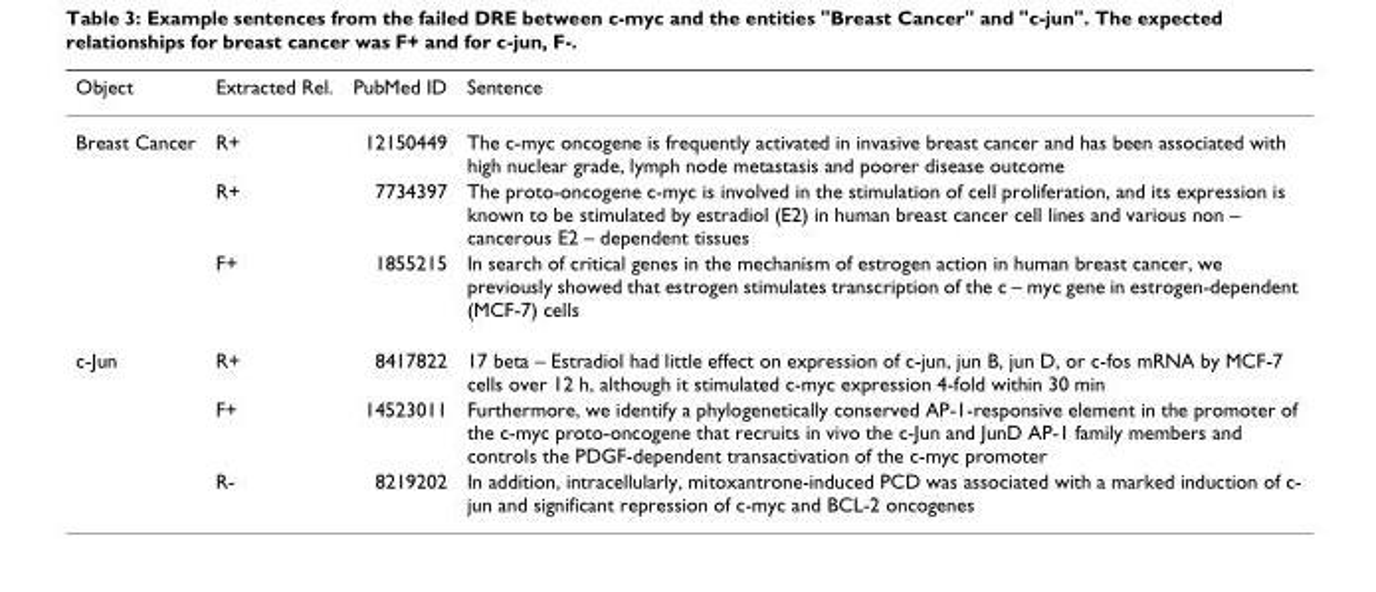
<table><thead><tr><td>Object</td><td>Extracted Rel.</td><td>PubMed ID</td><td>Sentence</td></tr></thead><tbody><tr><td rowspan="3">Breast Cancer</td><td>R+</td><td>12150449</td><td>The c-myc oncogene is frequently activated in invasive breast cancer and has been associated with high nuclear grade, lymph node metastasis and poorer disease outcome</td></tr><tr><td>R+</td><td>7734397</td><td>The proto-oncogene c-myc is involved in the stimulation of cell proliferation, and its expression is known to be stimulated by estradiol (E2) in human breast cancer cell lines and various non – cancerous E2 – dependent tissues</td></tr><tr><td>F+</td><td>1855215</td><td>In search of critical genes in the mechanism of estrogen action in human breast cancer, we previously showed that estrogen stimulates transcription of the c – myc gene in estrogen-dependent (MCF-7) cells</td></tr><tr><td rowspan="3">c-Jun</td><td>R+</td><td>8417822</td><td>17 beta – Estradiol had little effect on expression of c-jun, jun B, jun D, or c-fos mRNA by MCF-7 cells over 12 h, although it stimulated c-myc expression 4-fold within 30 min</td></tr><tr><td>F+</td><td>14523011</td><td>Furthermore, we identify a phylogenetically conserved AP-1-responsive element in the promoter of the c-myc proto-oncogene that recruits in vivo the c-Jun and JunD AP-1 family members and controls the PDGF-dependent transactivation of the c-myc promoter</td></tr><tr><td>R-</td><td>8219202</td><td>In addition, intracellularly, mitoxantrone-induced PCD was associated with a marked induction of c- jun and significant repression of c-myc and BCL-2 oncogenes</td></tr></tbody></table>